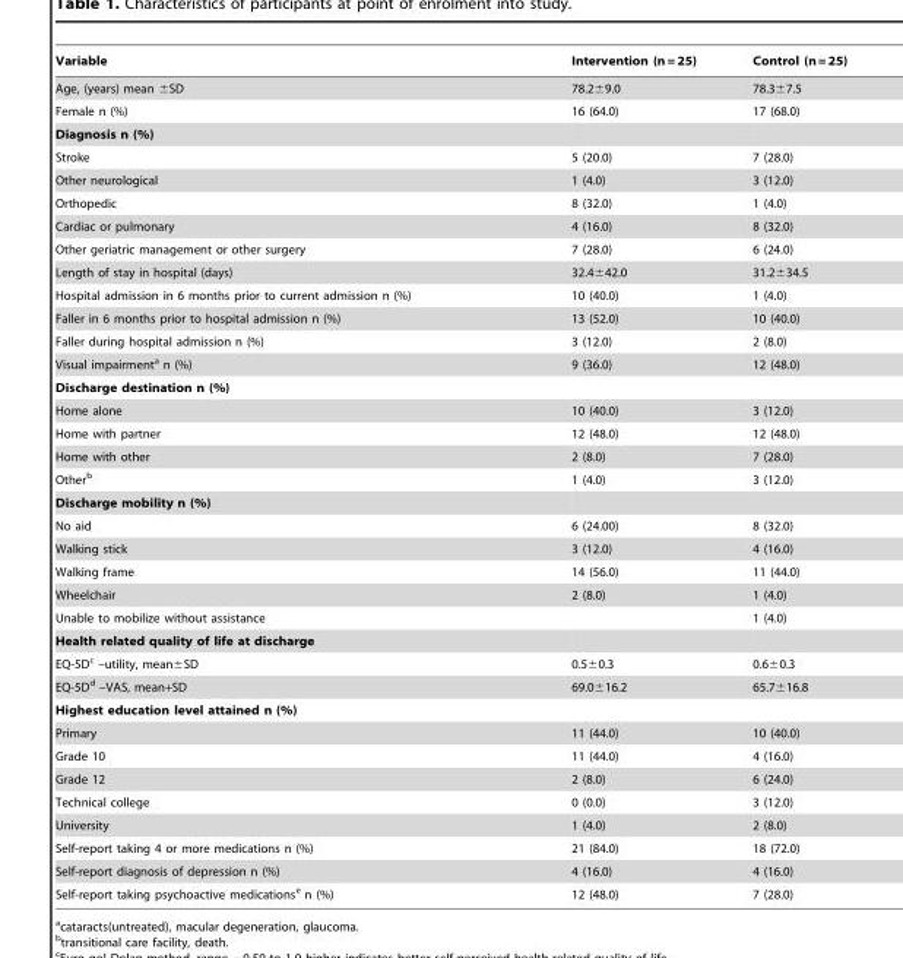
<table><thead><tr><td>Variable</td><td>Intervention (n = 25)</td><td>Control (n = 25)</td></tr></thead><tbody><tr><td>Age, (years) mean ±SD</td><td>78.2±9.0</td><td>78.3±7.5</td></tr><tr><td>Female n (%)</td><td>16 (64.0)</td><td>17 (68.0)</td></tr><tr><td colspan="3">Diagnosis n (%)</td></tr><tr><td>Stroke</td><td>5 (20.0)</td><td>7 (28.0)</td></tr><tr><td>Other neurological</td><td>1 (4.0)</td><td>3 (12.0)</td></tr><tr><td>Orthopedic</td><td>8 (32.0)</td><td>1 (4.0)</td></tr><tr><td>Cardiac or pulmonary</td><td>4 (16.0)</td><td>8 (32.0)</td></tr><tr><td>Other geriatric management or other surgery</td><td>7 (28.0)</td><td>6 (24.0)</td></tr><tr><td>Length of stay in hospital (days)</td><td>32.4±42.0</td><td>31.2±34.5</td></tr><tr><td>Hospital admission in 6 months prior to current admission n (%)</td><td>10 (40.0)</td><td>1 (4.0)</td></tr><tr><td>Faller in 6 months prior to hospital admission n (%)</td><td>13 (52.0)</td><td>10 (40.0)</td></tr><tr><td>Faller during hospital admission n (%)</td><td>3 (12.0)</td><td>2 (8.0)</td></tr><tr><td>Visual impairment<sup>a</sup> n (%)</td><td>9 (36.0)</td><td>12 (48.0)</td></tr><tr><td colspan="3">Discharge destination n (%)</td></tr><tr><td>Home alone</td><td>10 (40.0)</td><td>3 (12.0)</td></tr><tr><td>Home with partner</td><td>12 (48.0)</td><td>12 (48.0)</td></tr><tr><td>Home with other</td><td>2 (8.0)</td><td>7 (28.0)</td></tr><tr><td>Other<sup>b</sup></td><td>1 (4.0)</td><td>3 (12.0)</td></tr><tr><td colspan="3">Discharge mobility n (%)</td></tr><tr><td>No aid</td><td>6 (24.00)</td><td>8 (32.0)</td></tr><tr><td>Walking stick</td><td>3 (12.0)</td><td>4 (16.0)</td></tr><tr><td>Walking frame</td><td>14 (56.0)</td><td>11 (44.0)</td></tr><tr><td>Wheelchair</td><td>2 (8.0)</td><td>1 (4.0)</td></tr><tr><td>Unable to mobilize without assistance</td><td></td><td>1 (4.0)</td></tr><tr><td colspan="3">Health related quality of life at discharge</td></tr><tr><td>EQ-5D<sup>c</sup> –utility, mean±SD</td><td>0.5±0.3</td><td>0.6±0.3</td></tr><tr><td>EQ-5D<sup>d</sup> –VAS, mean+SD</td><td>69.0±16.2</td><td>65.7±16.8</td></tr><tr><td colspan="3">Highest education level attained n (%)</td></tr><tr><td>Primary</td><td>11 (44.0)</td><td>10 (40.0)</td></tr><tr><td>Grade 10</td><td>11 (44.0)</td><td>4 (16.0)</td></tr><tr><td>Grade 12</td><td>2 (8.0)</td><td>6 (24.0)</td></tr><tr><td>Technical college</td><td>0 (0.0)</td><td>3 (12.0)</td></tr><tr><td>University</td><td>1 (4.0)</td><td>2 (8.0)</td></tr><tr><td>Self-report taking 4 or more medications n (%)</td><td>21 (84.0)</td><td>18 (72.0)</td></tr><tr><td>Self-report diagnosis of depression n (%)</td><td>4 (16.0)</td><td>4 (16.0)</td></tr><tr><td>Self-report taking psychoactive medications<sup>e</sup> n (%)</td><td>12 (48.0)</td><td>7 (28.0)</td></tr></tbody></table>